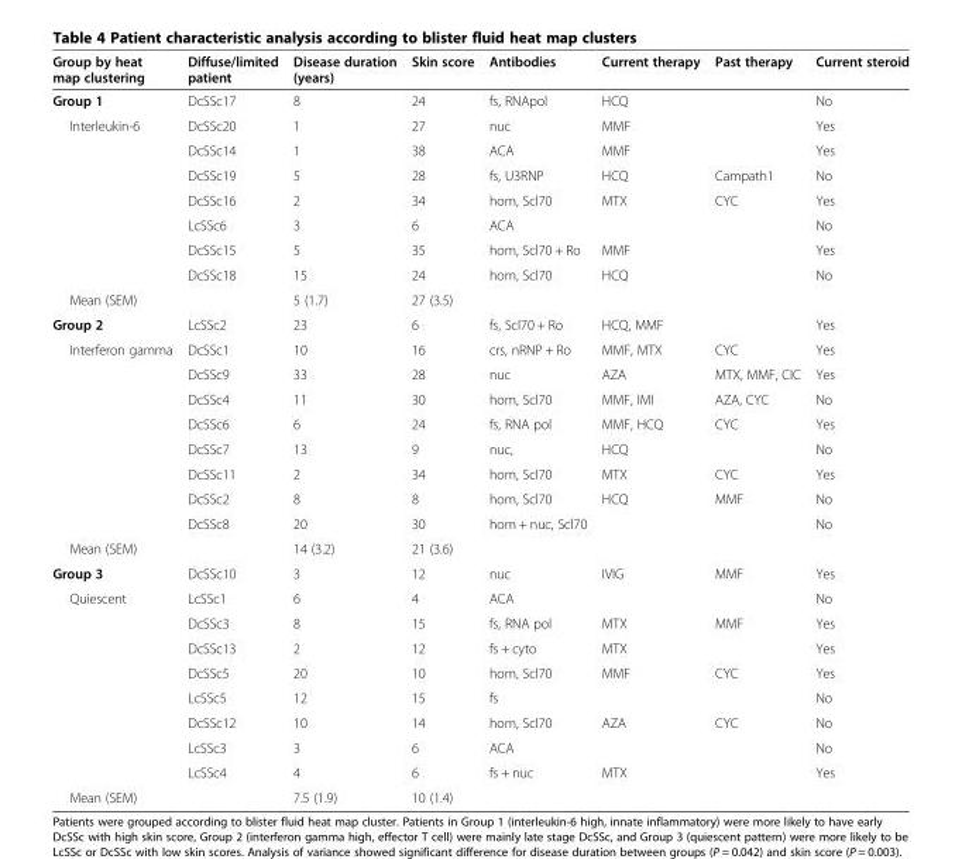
<table><thead><tr><td>Group by heat map clustering</td><td>Diffuse/limited patient</td><td>Disease duration (years)</td><td>Skin score</td><td>Antibodies</td><td>Current therapy</td><td>Past therapy</td><td>Current steroid</td></tr></thead><tbody><tr><td>Group 1</td><td>DcSSc17</td><td>8</td><td>24</td><td>fs, RNApol</td><td>HCQ</td><td></td><td>No</td></tr><tr><td rowspan="7">Interleukin-6</td><td>DcSSc20</td><td>1</td><td>27</td><td>nuc</td><td>MMF</td><td></td><td>Yes</td></tr><tr><td>DcSSc14</td><td>1</td><td>38</td><td>ACA</td><td>MMF</td><td></td><td>Yes</td></tr><tr><td>DcSSc19</td><td>5</td><td>28</td><td>fs, U3RNP</td><td>HCQ</td><td>Campath1</td><td>No</td></tr><tr><td>DcSSc16</td><td>2</td><td>34</td><td>hom, Scl70</td><td>MTX</td><td>CYC</td><td>Yes</td></tr><tr><td>LcSSc6</td><td>3</td><td>6</td><td>ACA</td><td></td><td></td><td>No</td></tr><tr><td>DcSSc15</td><td>5</td><td>35</td><td>hom, Scl70 + Ro</td><td>MMF</td><td></td><td>Yes</td></tr><tr><td>DcSSc18</td><td>15</td><td>24</td><td>hom, Scl70</td><td>HCQ</td><td></td><td>No</td></tr><tr><td>Mean (SEM)</td><td></td><td>5 (1.7)</td><td>27 (3.5)</td><td></td><td></td><td></td><td></td></tr><tr><td>Group 2</td><td>LcSSc2</td><td>23</td><td>6</td><td>fs, Scl70 + Ro</td><td>HCQ, MMF</td><td></td><td>Yes</td></tr><tr><td rowspan="8">Interferon gamma</td><td>DcSSc1</td><td>10</td><td>16</td><td>crs, nRNP + Ro</td><td>MMF, MTX</td><td>CYC</td><td>Yes</td></tr><tr><td>DcSSc9</td><td>33</td><td>28</td><td>nuc</td><td>AZA</td><td>MTX, MMF, CIC</td><td>Yes</td></tr><tr><td>DcSSc4</td><td>11</td><td>30</td><td>hom, Scl70</td><td>MMF, IMI</td><td>AZA, CYC</td><td>No</td></tr><tr><td>DcSSc6</td><td>6</td><td>24</td><td>fs, RNA pol</td><td>MMF, HCQ</td><td>CYC</td><td>Yes</td></tr><tr><td>DcSSc7</td><td>13</td><td>9</td><td>nuc,</td><td>HCQ</td><td></td><td>No</td></tr><tr><td>DcSSc11</td><td>2</td><td>34</td><td>hom, Scl70</td><td>MTX</td><td>CYC</td><td>Yes</td></tr><tr><td>DcSSc2</td><td>8</td><td>8</td><td>hom, Scl70</td><td>HCQ</td><td>MMF</td><td>No</td></tr><tr><td>DcSSc8</td><td>20</td><td>30</td><td>hom + nuc, Scl70</td><td></td><td></td><td>No</td></tr><tr><td>Mean (SEM)</td><td></td><td>14 (3.2)</td><td>21 (3.6)</td><td></td><td></td><td></td><td></td></tr><tr><td>Group 3</td><td>DcSSc10</td><td>3</td><td>12</td><td>nuc</td><td>IVIG</td><td>MMF</td><td>Yes</td></tr><tr><td rowspan="8">Quiescent</td><td>LcSSc1</td><td>6</td><td>4</td><td>ACA</td><td></td><td></td><td>No</td></tr><tr><td>DcSSc3</td><td>8</td><td>15</td><td>fs, RNA pol</td><td>MTX</td><td>MMF</td><td>Yes</td></tr><tr><td>DcSSc13</td><td>2</td><td>12</td><td>fs + cyto</td><td>MTX</td><td></td><td>Yes</td></tr><tr><td>DcSSc5</td><td>20</td><td>10</td><td>hom, Scl70</td><td>MMF</td><td>CYC</td><td>Yes</td></tr><tr><td>LcSSc5</td><td>12</td><td>15</td><td>fs</td><td></td><td></td><td>No</td></tr><tr><td>DcSSc12</td><td>10</td><td>14</td><td>hom, Scl70</td><td>AZA</td><td>CYC</td><td>No</td></tr><tr><td>LcSSc3</td><td>3</td><td>6</td><td>ACA</td><td></td><td></td><td>No</td></tr><tr><td>LcSSc4</td><td>4</td><td>6</td><td>fs + nuc</td><td>MTX</td><td></td><td>Yes</td></tr><tr><td>Mean (SEM)</td><td></td><td>7.5 (1.9)</td><td>10 (1.4)</td><td></td><td></td><td></td><td></td></tr></tbody></table>